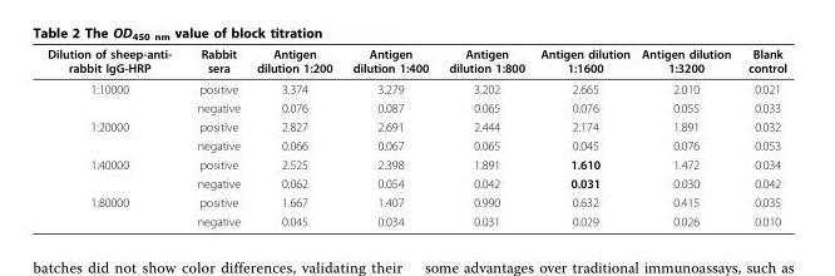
<table><thead><tr><td>Dilution of sheep-anti- rabbit IgG-HRP</td><td>Rabbit sera</td><td>Antigen dilution 1:200</td><td>Antigen dilution 1:400</td><td>Antigen dilution 1:800</td><td>Antigen dilution 1:1600</td><td>Antigen dilution 1:3200</td><td>Blank control</td></tr></thead><tbody><tr><td rowspan="2">1:10000</td><td>positive</td><td>3.374</td><td>3.279</td><td>3.202</td><td>2.665</td><td>2.010</td><td>0.021</td></tr><tr><td>negative</td><td>0.076</td><td>0.087</td><td>0.065</td><td>0.076</td><td>0.055</td><td>0.033</td></tr><tr><td rowspan="2">1:20000</td><td>positive</td><td>2.827</td><td>2.691</td><td>2.444</td><td>2.174</td><td>1.891</td><td>0.032</td></tr><tr><td>negative</td><td>0.066</td><td>0.067</td><td>0.065</td><td>0.045</td><td>0.076</td><td>0.053</td></tr><tr><td rowspan="2">1:40000</td><td>positive</td><td>2.525</td><td>2.398</td><td>1.891</td><td>1.610</td><td>1.472</td><td>0.034</td></tr><tr><td>negative</td><td>0.062</td><td>0.054</td><td>0.042</td><td>0.031</td><td>0.030</td><td>0.042</td></tr><tr><td rowspan="2">1:80000</td><td>positive</td><td>1.667</td><td>1.407</td><td>0.990</td><td>0.632</td><td>0.415</td><td>0.035</td></tr><tr><td>negative</td><td>0.045</td><td>0.034</td><td>0.031</td><td>0.029</td><td>0.026</td><td>0.010</td></tr></tbody></table>